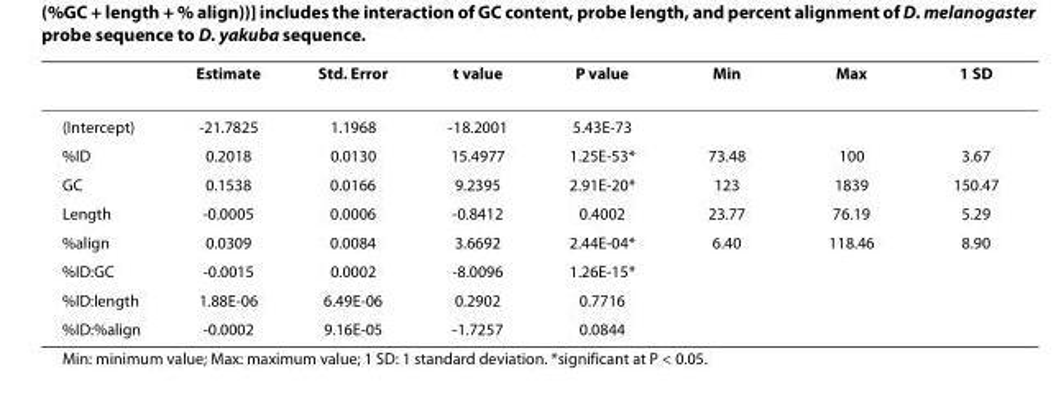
<table><thead><tr><td></td><td>Estimate</td><td>Std. Error</td><td>t value</td><td>P value</td><td>Min</td><td>Max</td><td>1 SD</td></tr></thead><tbody><tr><td>(Intercept)</td><td>-21.7825</td><td>1.1968</td><td>-18.2001</td><td>5.43E-73</td><td></td><td></td><td></td></tr><tr><td>%ID</td><td>0.2018</td><td>0.0130</td><td>15.4977</td><td>1.25E-53*</td><td>73.48</td><td>100</td><td>3.67</td></tr><tr><td>GC</td><td>0.1538</td><td>0.0166</td><td>9.2395</td><td>2.91E-20*</td><td>123</td><td>1839</td><td>150.47</td></tr><tr><td>Length</td><td>-0.0005</td><td>0.0006</td><td>-0.8412</td><td>0.4002</td><td>23.77</td><td>76.19</td><td>5.29</td></tr><tr><td>%align</td><td>0.0309</td><td>0.0084</td><td>3.6692</td><td>2.44E-04*</td><td>6.40</td><td>118.46</td><td>8.90</td></tr><tr><td>%ID:GC</td><td>-0.0015</td><td>0.0002</td><td>-8.0096</td><td>1.26E-15*</td><td></td><td></td><td></td></tr><tr><td>%ID:length</td><td>1.88E-06</td><td>6.49E-06</td><td>0.2902</td><td>0.7716</td><td></td><td></td><td></td></tr><tr><td>%ID:%align</td><td>-0.0002</td><td>9.16E-05</td><td>-1.7257</td><td>0.0844</td><td></td><td></td><td></td></tr></tbody></table>